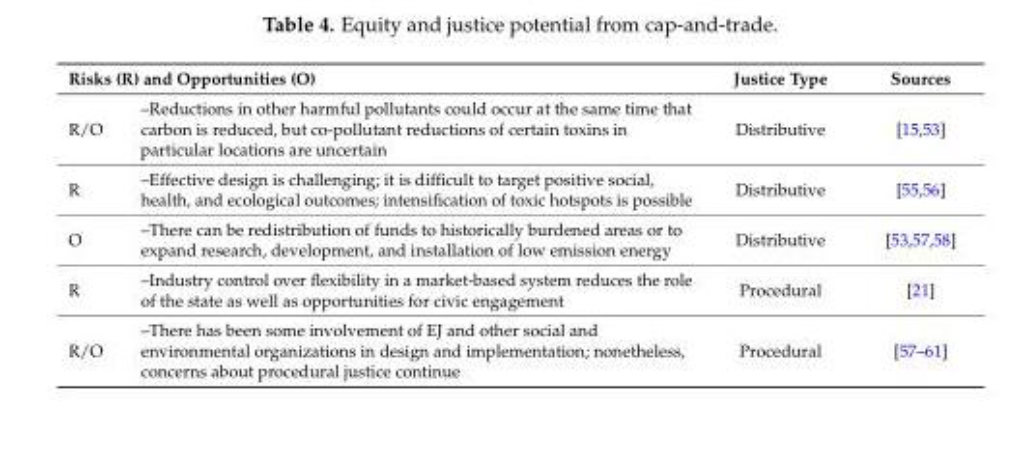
<table><thead><tr><td colspan="2">Risks (R) and Opportunities (O)</td><td rowspan="2">Justice Type Distributive</td><td rowspan="2">Sources [15,53]</td></tr><tr><td>R/O</td><td>–Reductions in other harmful pollutants could occur at the same time that carbon is reduced, but co-pollutant reductions of certain toxins in particular locations are uncertain</td></tr></thead><tbody><tr><td>R</td><td>–Effective design is challenging; it is difficult to target positive social, health, and ecological outcomes; intensification of toxic hotspots is possible</td><td>Distributive</td><td>[55,56]</td></tr><tr><td>O</td><td>–There can be redistribution of funds to historically burdened areas or to expand research, development, and installation of low emission energy</td><td>Distributive</td><td>[53,57,58]</td></tr><tr><td>R</td><td>–Industry control over flexibility in a market-based system reduces the role of the state as well as opportunities for civic engagement</td><td>Procedural</td><td>[21]</td></tr><tr><td>R/O</td><td>–There has been some involvement of EJ and other social and environmental organizations in design and implementation; nonetheless, concerns about procedural justice continue</td><td>Procedural</td><td>[57–61]</td></tr></tbody></table>